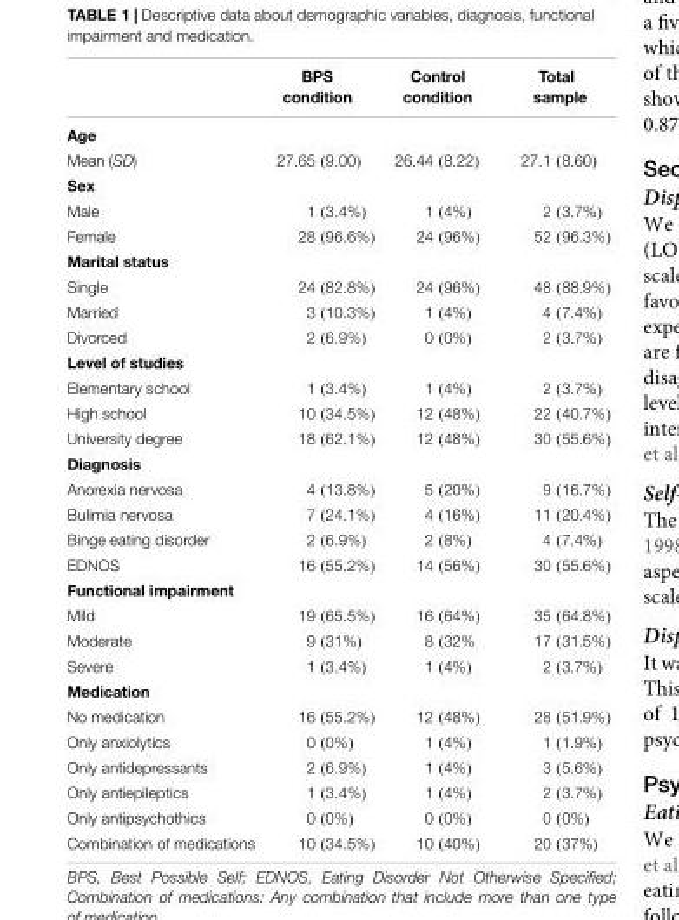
<table><thead><tr><td></td><td>BPS condition</td><td>Control condition</td><td>Total sample</td></tr></thead><tbody><tr><td colspan="4">Age</td></tr><tr><td>Mean (SD)</td><td>27.65 (9.00)</td><td>26.44 (8.22)</td><td>27.1 (8.60)</td></tr><tr><td colspan="4">Sex</td></tr><tr><td>Male</td><td>1 (3.4%)</td><td>1 (4%)</td><td>2 (3.7%)</td></tr><tr><td>Female</td><td>28 (96.6%)</td><td>24 (96%)</td><td>52 (96.3%)</td></tr><tr><td colspan="4">Marital status</td></tr><tr><td>Single</td><td>24 (82.8%)</td><td>24 (96%)</td><td>48 (88.9%)</td></tr><tr><td>Married</td><td>3 (10.3%)</td><td>1 (4%)</td><td>4 (7.4%)</td></tr><tr><td>Divorced</td><td>2 (6.9%)</td><td>0 (0%)</td><td>2 (3.7%)</td></tr><tr><td colspan="4">Level of studies</td></tr><tr><td>Elementary school</td><td>1 (3.4%)</td><td>1 (4%)</td><td>2 (3.7%)</td></tr><tr><td>High school</td><td>10 (34.5%)</td><td>12 (48%)</td><td>22 (40.7%)</td></tr><tr><td>University degree</td><td>18 (62.1%)</td><td>12 (48%)</td><td>30 (55.6%)</td></tr><tr><td colspan="4">Diagnosis</td></tr><tr><td>Anorexia nervosa</td><td>4 (13.8%)</td><td>5 (20%)</td><td>9 (16.7%)</td></tr><tr><td>Bulimia nervosa</td><td>7 (24.1%)</td><td>4 (16%)</td><td>11 (20.4%)</td></tr><tr><td>Binge eating disorder</td><td>2 (6.9%)</td><td>2 (8%)</td><td>4 (7.4%)</td></tr><tr><td>EDNOS</td><td>16 (55.2%)</td><td>14 (56%)</td><td>30 (55.6%)</td></tr><tr><td colspan="4">Functional impairment</td></tr><tr><td>Mild</td><td>19 (65.5%)</td><td>16 (64%)</td><td>35 (64.8%)</td></tr><tr><td>Moderate</td><td>9 (31%)</td><td>8 (32%</td><td>17 (31.5%)</td></tr><tr><td>Severe</td><td>1 (3.4%)</td><td>1 (4%)</td><td>2 (3.7%)</td></tr><tr><td colspan="4">Medication</td></tr><tr><td>No medication</td><td>16 (55.2%)</td><td>12 (48%)</td><td>28 (51.9%)</td></tr><tr><td>Only anxiolytics</td><td>0 (0%)</td><td>1 (4%)</td><td>1 (1.9%)</td></tr><tr><td>Only antidepressants</td><td>2 (6.9%)</td><td>1 (4%)</td><td>3 (5.6%)</td></tr><tr><td>Only antiepileptics</td><td>1 (3.4%)</td><td>1 (4%)</td><td>2 (3.7%)</td></tr><tr><td>Only antipsychothics</td><td>0 (0%)</td><td>0 (0%)</td><td>0 (0%)</td></tr><tr><td>Combination of medications</td><td>10 (34.5%)</td><td>10 (40%)</td><td>20 (37%)</td></tr></tbody></table>